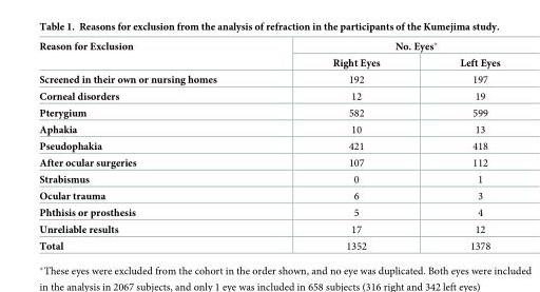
<table><thead><tr><td rowspan="2">Reason for Exclusion</td><td colspan="2">No. Eyes*</td></tr><tr><td>Right Eyes</td><td>Left Eyes</td></tr></thead><tbody><tr><td>Screened in their own or nursing homes</td><td>192</td><td>197</td></tr><tr><td>Corneal disorders</td><td>12</td><td>19</td></tr><tr><td>Pterygium</td><td>582</td><td>599</td></tr><tr><td>Aphakia</td><td>10</td><td>13</td></tr><tr><td>Pseudophakia</td><td>421</td><td>418</td></tr><tr><td>After ocular surgeries</td><td>107</td><td>112</td></tr><tr><td>Strabismus</td><td>0</td><td>1</td></tr><tr><td>Ocular trauma</td><td>6</td><td>3</td></tr><tr><td>Phthisis or prosthesis</td><td>5</td><td>4</td></tr><tr><td>Unreliable results</td><td>17</td><td>12</td></tr><tr><td>Total</td><td>1352</td><td>1378</td></tr></tbody></table>